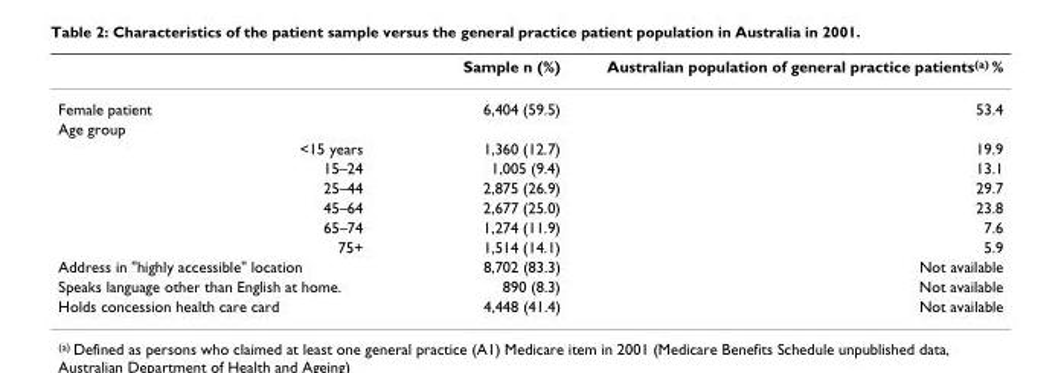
<table><thead><tr><td></td><td>Sample n (%)</td><td>Australian population of general practice patients<sup>(a)</sup> %</td></tr></thead><tbody><tr><td>Female patient</td><td>6,404 (59.5)</td><td>53.4</td></tr><tr><td colspan="3">Age group</td></tr><tr><td>&lt;15 years</td><td>1,360 (12.7)</td><td>19.9</td></tr><tr><td>15–24</td><td>1,005 (9.4)</td><td>13.1</td></tr><tr><td>25–44</td><td>2,875 (26.9)</td><td>29.7</td></tr><tr><td>45–64</td><td>2,677 (25.0)</td><td>23.8</td></tr><tr><td>65–74</td><td>1,274 (11.9)</td><td>7.6</td></tr><tr><td>75+</td><td>1,514 (14.1)</td><td>5.9</td></tr><tr><td>Address in &quot;highly accessible&quot; location</td><td>8,702 (83.3)</td><td>Not available</td></tr><tr><td>Speaks language other than English at home.</td><td>890 (8.3)</td><td>Not available</td></tr><tr><td>Holds concession health care card</td><td>4,448 (41.4)</td><td>Not available</td></tr></tbody></table>